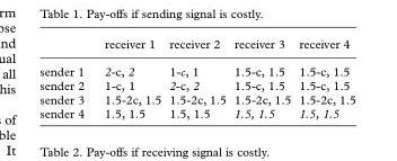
<table><thead><tr><td></td><td>receiver 1</td><td>receiver 2</td><td>receiver 3</td><td>receiver 4</td></tr></thead><tbody><tr><td>sender 1</td><td>2-c, 2</td><td>1-c, 1</td><td>1.5-c, 1.5</td><td>1.5-c, 1.5</td></tr><tr><td>sender 2</td><td>1-c, 1</td><td>2-c, 2</td><td>1.5-c, 1.5</td><td>1.5-c, 1.5</td></tr><tr><td>sender 3</td><td>1.5-2c, 1.5</td><td>1.5-2c, 1.5</td><td>1.5-2c, 1.5</td><td>1.5-2c, 1.5</td></tr><tr><td>sender 4</td><td>1.5, 1.5</td><td>1.5, 1.5</td><td>1.5, 1.5</td><td>1.5, 1.5</td></tr></tbody></table>